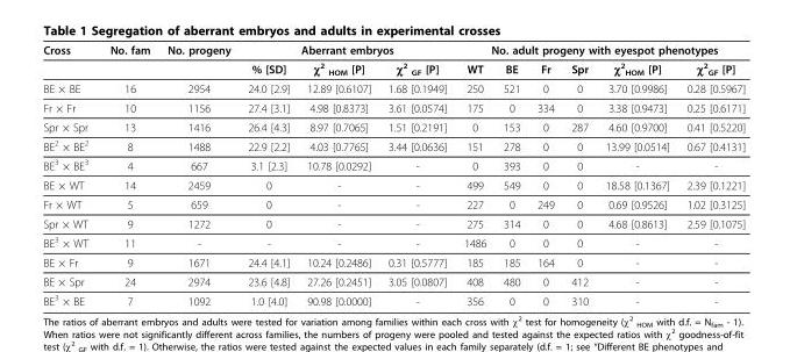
<table><thead><tr><td rowspan="2">Cross</td><td rowspan="2">No. fam</td><td rowspan="2">No. progeny</td><td colspan="3">Aberrant embryos</td><td colspan="6">No. adult progeny with eyespot phenotypes</td></tr><tr><td>% [SD]</td><td>χ<sup>2</sup> <sub>HOM</sub> [P]</td><td>χ<sup>2</sup> <sub>GF</sub> [P]</td><td>WT</td><td>BE</td><td>Fr</td><td>Spr</td><td>χ<sup>2</sup> <sub>HOM</sub> [P]</td><td>χ<sup>2</sup> <sub>GF</sub> [P]</td></tr></thead><tbody><tr><td>BE × BE</td><td>16</td><td>2954</td><td>24.0 [2.9]</td><td>12.89 [0.6107]</td><td>1.68 [0.1949]</td><td>250</td><td>521</td><td>0</td><td>0</td><td>3.70 [0.9986]</td><td>0.28 [0.5967]</td></tr><tr><td>Fr × Fr</td><td>10</td><td>1156</td><td>27.4 [3.1]</td><td>4.98 [0.8373]</td><td>3.61 [0.0574]</td><td>175</td><td>0</td><td>334</td><td>0</td><td>3.38 [0.9473]</td><td>0.25 [0.6171]</td></tr><tr><td>Spr × Spr</td><td>13</td><td>1416</td><td>26.4 [4.3]</td><td>8.97 [0.7065]</td><td>1.51 [0.2191]</td><td>0</td><td>153</td><td>0</td><td>287</td><td>4.60 [0.9700]</td><td>0.41 [0.5220]</td></tr><tr><td>BE<sup>2</sup> × BE<sup>2</sup></td><td>8</td><td>1488</td><td>22.9 [2.2]</td><td>4.03 [0.7765]</td><td>3.44 [0.0636]</td><td>151</td><td>278</td><td>0</td><td>0</td><td>13.99 [0.0514]</td><td>0.67 [0.4131]</td></tr><tr><td>BE<sup>3</sup> × BE<sup>3</sup></td><td>4</td><td>667</td><td>3.1 [2.3]</td><td>10.78 [0.0292]</td><td>-</td><td>0</td><td>393</td><td>0</td><td>0</td><td>-</td><td>-</td></tr><tr><td>BE × WT</td><td>14</td><td>2459</td><td>0</td><td>-</td><td>-</td><td>499</td><td>549</td><td>0</td><td>0</td><td>18.58 [0.1367]</td><td>2.39 [0.1221]</td></tr><tr><td>Fr × WT</td><td>5</td><td>659</td><td>0</td><td>-</td><td>-</td><td>227</td><td>0</td><td>249</td><td>0</td><td>0.69 [0.9526]</td><td>1.02 [0.3125]</td></tr><tr><td>Spr × WT</td><td>9</td><td>1272</td><td>0</td><td>-</td><td>-</td><td>275</td><td>314</td><td>0</td><td>0</td><td>4.68 [0.8613]</td><td>2.59 [0.1075]</td></tr><tr><td>BE<sup>3</sup> × WT</td><td>11</td><td>-</td><td>-</td><td>-</td><td>-</td><td>1486</td><td>0</td><td>0</td><td>0</td><td>-</td><td>-</td></tr><tr><td>BE × Fr</td><td>9</td><td>1671</td><td>24.4 [4.1]</td><td>10.24 [0.2486]</td><td>0.31 [0.5777]</td><td>185</td><td>185</td><td>164</td><td>0</td><td>-</td><td>-</td></tr><tr><td>BE × Spr</td><td>24</td><td>2974</td><td>23.6 [4.8]</td><td>27.26 [0.2451]</td><td>3.05 [0.0807]</td><td>408</td><td>480</td><td>0</td><td>412</td><td>-</td><td>-</td></tr><tr><td>BE<sup>3</sup> × BE</td><td>7</td><td>1092</td><td>1.0 [4.0]</td><td>90.98 [0.0000]</td><td>-</td><td>356</td><td>0</td><td>0</td><td>310</td><td>-</td><td>-</td></tr></tbody></table>